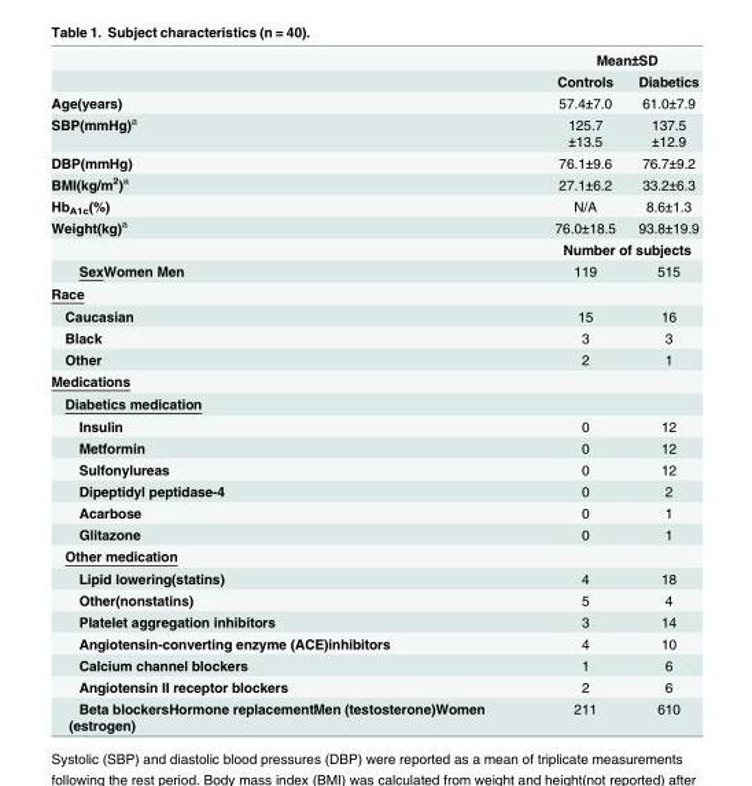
<table><thead><tr><td rowspan="2"></td><td colspan="2">Mean±SD</td></tr><tr><td>Controls</td><td>Diabetics</td></tr></thead><tbody><tr><td>Age(years)</td><td>57.4±7.0</td><td>61.0±7.9</td></tr><tr><td>SBP(mmHg)<sup>a</sup></td><td>125.7 ±13.5</td><td>137.5 ±12.9</td></tr><tr><td>DBP(mmHg)</td><td>76.1±9.6</td><td>76.7±9.2</td></tr><tr><td>BMI(kg/m<sup>2</sup>)<sup>a</sup></td><td>27.1±6.2</td><td>33.2±6.3</td></tr><tr><td>Hb<sub>A1c</sub>(%)</td><td>N/A</td><td>8.6±1.3</td></tr><tr><td rowspan="2">Weight(kg)<sup>a</sup></td><td>76.0±18.5</td><td>93.8±19.9</td></tr><tr><td colspan="2">Number of subjects</td></tr><tr><td>SexWomen Men</td><td>119</td><td>515</td></tr><tr><td colspan="3">Race</td></tr><tr><td>Caucasian</td><td>15</td><td>16</td></tr><tr><td>Black</td><td>3</td><td>3</td></tr><tr><td>Other</td><td>2</td><td>1</td></tr><tr><td colspan="3">Medications</td></tr><tr><td colspan="3">Diabetics medication</td></tr><tr><td>Insulin</td><td>0</td><td>12</td></tr><tr><td>Metformin</td><td>0</td><td>12</td></tr><tr><td>Sulfonylureas</td><td>0</td><td>12</td></tr><tr><td>Dipeptidyl peptidase-4</td><td>0</td><td>2</td></tr><tr><td>Acarbose</td><td>0</td><td>1</td></tr><tr><td>Glitazone</td><td>0</td><td>1</td></tr><tr><td colspan="3">Other medication</td></tr><tr><td>Lipid lowering(statins)</td><td>4</td><td>18</td></tr><tr><td>Other(nonstatins)</td><td>5</td><td>4</td></tr><tr><td>Platelet aggregation inhibitors</td><td>3</td><td>14</td></tr><tr><td>Angiotensin-converting enzyme (ACE)inhibitors</td><td>4</td><td>10</td></tr><tr><td>Calcium channel blockers</td><td>1</td><td>6</td></tr><tr><td>Angiotensin II receptor blockers</td><td>2</td><td>6</td></tr><tr><td>Beta blockersHormone replacementMen (testosterone)Women (estrogen)</td><td>211</td><td>610</td></tr></tbody></table>